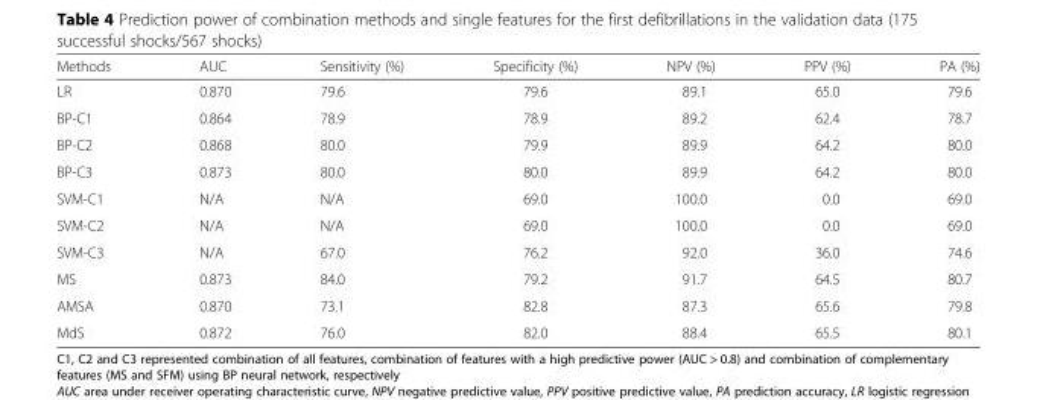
<table><thead><tr><td>Methods</td><td>AUC</td><td>Sensitivity (%)</td><td>Specificity (%)</td><td>NPV (%)</td><td>PPV (%)</td><td>PA (%)</td></tr></thead><tbody><tr><td>LR</td><td>0.870</td><td>79.6</td><td>79.6</td><td>89.1</td><td>65.0</td><td>79.6</td></tr><tr><td>BP-C1</td><td>0.864</td><td>78.9</td><td>78.9</td><td>89.2</td><td>62.4</td><td>78.7</td></tr><tr><td>BP-C2</td><td>0.868</td><td>80.0</td><td>79.9</td><td>89.9</td><td>64.2</td><td>80.0</td></tr><tr><td>BP-C3</td><td>0.873</td><td>80.0</td><td>80.0</td><td>89.9</td><td>64.2</td><td>80.0</td></tr><tr><td>SVM-C1</td><td>N/A</td><td>N/A</td><td>69.0</td><td>100.0</td><td>0.0</td><td>69.0</td></tr><tr><td>SVM-C2</td><td>N/A</td><td>N/A</td><td>69.0</td><td>100.0</td><td>0.0</td><td>69.0</td></tr><tr><td>SVM-C3</td><td>N/A</td><td>67.0</td><td>76.2</td><td>92.0</td><td>36.0</td><td>74.6</td></tr><tr><td>MS</td><td>0.873</td><td>84.0</td><td>79.2</td><td>91.7</td><td>64.5</td><td>80.7</td></tr><tr><td>AMSA</td><td>0.870</td><td>73.1</td><td>82.8</td><td>87.3</td><td>65.6</td><td>79.8</td></tr><tr><td>MdS</td><td>0.872</td><td>76.0</td><td>82.0</td><td>88.4</td><td>65.5</td><td>80.1</td></tr></tbody></table>